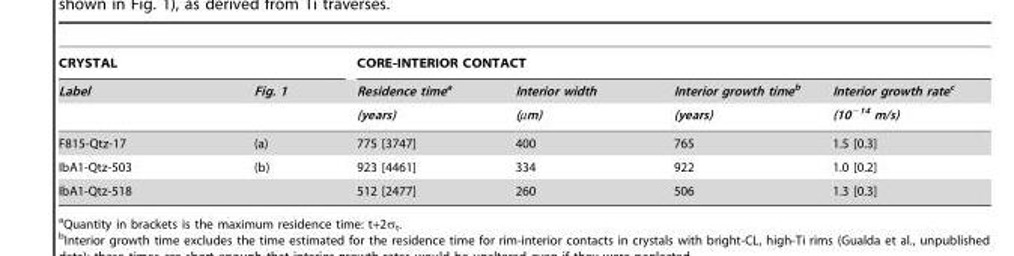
<table><thead><tr><td colspan="2">CRYSTAL</td><td colspan="4">CORE-INTERIOR CONTACT</td></tr><tr><td rowspan="2">Label</td><td rowspan="2">Fig. 1</td><td rowspan="2">Residence timea (years)</td><td rowspan="2">Interior width (µm)</td><td rowspan="2">Interior growth timeb (years)</td><td rowspan="2">Interior growth ratec (10<sup>−14</sup> m/s)</td></tr><tr></tr></thead><tbody><tr><td>F815-Qtz-17</td><td>(a)</td><td>775 [3747]</td><td>400</td><td>765</td><td>1.5 [0.3]</td></tr><tr><td>IbA1-Qtz-503</td><td>(b)</td><td>923 [4461]</td><td>334</td><td>922</td><td>1.0 [0.2]</td></tr><tr><td>IbA1-Qtz-518</td><td></td><td>512 [2477]</td><td>260</td><td>506</td><td>1.3 [0.3]</td></tr></tbody></table>